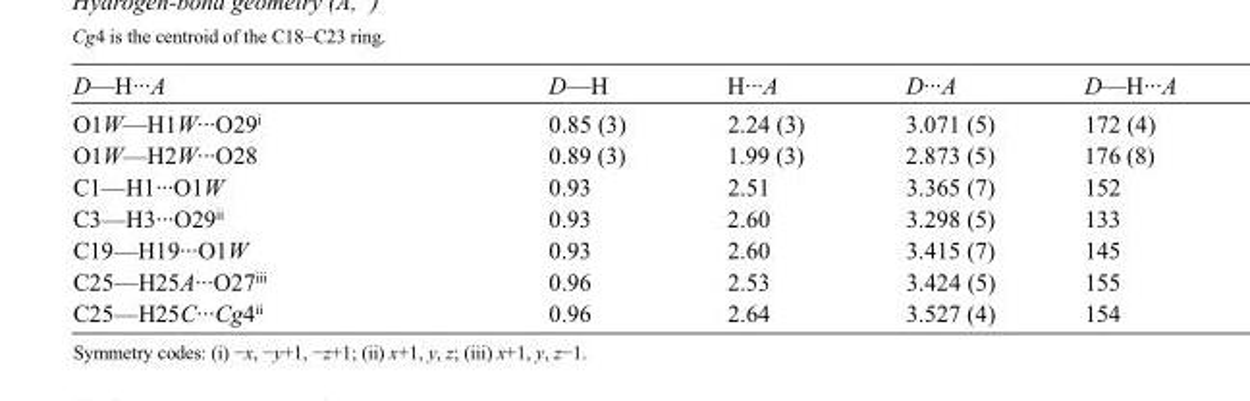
<table><tbody><tr><td>D—H···A</td><td>D—H</td><td>H···A</td><td>D···A</td><td>D—H···A</td></tr><tr><td>O1W—H1W···O29<sup>i</sup></td><td>0.85 (3)</td><td>2.24 (3)</td><td>3.071 (5)</td><td>172 (4)</td></tr><tr><td>O1W—H2W···O28</td><td>0.89 (3)</td><td>1.99 (3)</td><td>2.873 (5)</td><td>176 (8)</td></tr><tr><td>C1—H1···O1W</td><td>0.93</td><td>2.51</td><td>3.365 (7)</td><td>152</td></tr><tr><td>C3—H3···O29<sup>ii</sup></td><td>0.93</td><td>2.60</td><td>3.298 (5)</td><td>133</td></tr><tr><td>C19—H19···O1W</td><td>0.93</td><td>2.60</td><td>3.415 (7)</td><td>145</td></tr><tr><td>C25—H25A···O27<sup>iii</sup></td><td>0.96</td><td>2.53</td><td>3.424 (5)</td><td>155</td></tr><tr><td>C25—H25C···Cg4<sup>ii</sup></td><td>0.96</td><td>2.64</td><td>3.527 (4)</td><td>154</td></tr></tbody></table>